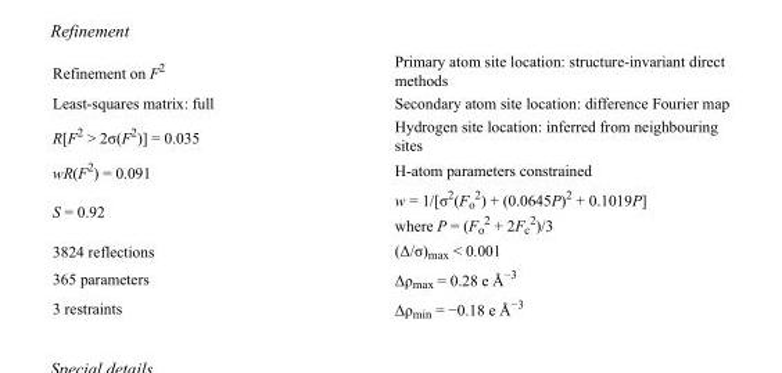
<table><tbody><tr><td>Refinement on F<sup>2</sup></td><td>Primary atom site location: structure-invariant direct methods</td></tr><tr><td>Least-squares matrix: full</td><td>Secondary atom site location: difference Fourier map</td></tr><tr><td>R[F<sup>2</sup> &gt; 2σ(F<sup>2</sup>)] = 0.035</td><td>Hydrogen site location: inferred from neighbouring sites</td></tr><tr><td>wR(F<sup>2</sup>) = 0.091</td><td>H-atom parameters constrained</td></tr><tr><td>S = 0.92</td><td>w = 1/[σ<sup>2</sup>(F<sub>o</sub> <sup>2</sup>) + (0.0645P)<sup>2</sup> + 0.1019P] where P = (F<sub>o</sub> <sup>2</sup> + 2F<sub>c</sub> <sup>2</sup>)/3</td></tr><tr><td>3824 reflections</td><td>(Δ/σ)<sub>max</sub> &lt; 0.001</td></tr><tr><td>365 parameters</td><td>Δρ<sub>max</sub> = 0.28 e Å<sup>−3</sup></td></tr><tr><td>3 restraints</td><td>Δρ<sub>min</sub> = −0.18 e Å<sup>−3</sup></td></tr></tbody></table>